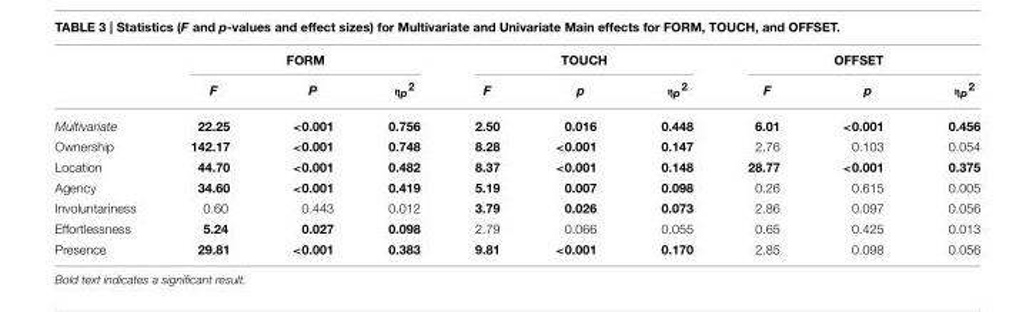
<table><thead><tr><td rowspan="2"></td><td colspan="3">FORM</td><td colspan="3">TOUCH</td><td colspan="3">OFFSET</td></tr><tr><td>F</td><td>P</td><td>η<sub>p</sub><sup>2</sup></td><td>F</td><td>p</td><td>η<sub>p</sub><sup>2</sup></td><td>F</td><td>p</td><td>η<sub>p</sub><sup>2</sup></td></tr></thead><tbody><tr><td>Multivariate</td><td>22.25</td><td>&lt;0.001</td><td>0.756</td><td>2.50</td><td>0.016</td><td>0.448</td><td>6.01</td><td>&lt;0.001</td><td>0.456</td></tr><tr><td>Ownership</td><td>142.17</td><td>&lt;0.001</td><td>0.748</td><td>8.28</td><td>&lt;0.001</td><td>0.147</td><td>2.76</td><td>0.103</td><td>0.054</td></tr><tr><td>Location</td><td>44.70</td><td>&lt;0.001</td><td>0.482</td><td>8.37</td><td>&lt;0.001</td><td>0.148</td><td>28.77</td><td>&lt;0.001</td><td>0.375</td></tr><tr><td>Agency</td><td>34.60</td><td>&lt;0.001</td><td>0.419</td><td>5.19</td><td>0.007</td><td>0.098</td><td>0.26</td><td>0.615</td><td>0.005</td></tr><tr><td>Involuntariness</td><td>0.60</td><td>0.443</td><td>0.012</td><td>3.79</td><td>0.026</td><td>0.073</td><td>2.86</td><td>0.097</td><td>0.056</td></tr><tr><td>Effortlessness</td><td>5.24</td><td>0.027</td><td>0.098</td><td>2.79</td><td>0.066</td><td>0.055</td><td>0.65</td><td>0.425</td><td>0.013</td></tr><tr><td>Presence</td><td>29.81</td><td>&lt;0.001</td><td>0.383</td><td>9.81</td><td>&lt;0.001</td><td>0.170</td><td>2.85</td><td>0.098</td><td>0.056</td></tr></tbody></table>